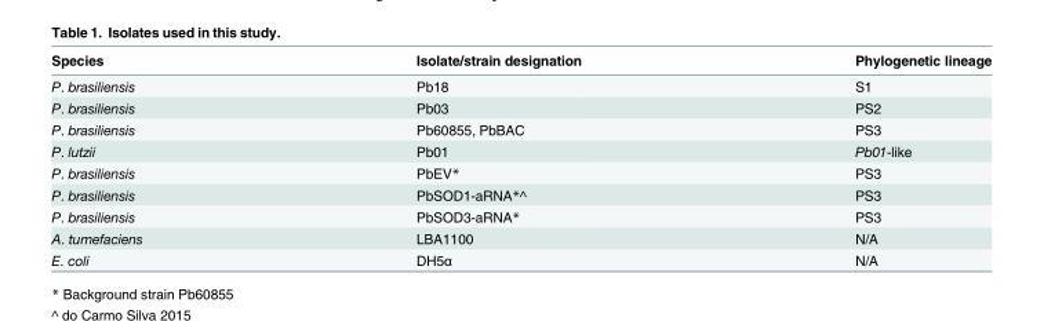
<table><thead><tr><td>Species</td><td>Isolate/strain designation</td><td>Phylogenetic lineage</td></tr></thead><tbody><tr><td>P. brasiliensis</td><td>Pb18</td><td>S1</td></tr><tr><td>P. brasiliensis</td><td>Pb03</td><td>PS2</td></tr><tr><td>P. brasiliensis</td><td>Pb60855, PbBAC</td><td>PS3</td></tr><tr><td>P. lutzii</td><td>Pb01</td><td>Pb01-like</td></tr><tr><td>P. brasiliensis</td><td>PbEV*</td><td>PS3</td></tr><tr><td>P. brasiliensis</td><td>PbSOD1-aRNA*^</td><td>PS3</td></tr><tr><td>P. brasiliensis</td><td>PbSOD3-aRNA*</td><td>PS3</td></tr><tr><td>A. tumefaciens</td><td>LBA1100</td><td>N/A</td></tr><tr><td>E. coli</td><td>DH5α</td><td>N/A</td></tr></tbody></table>